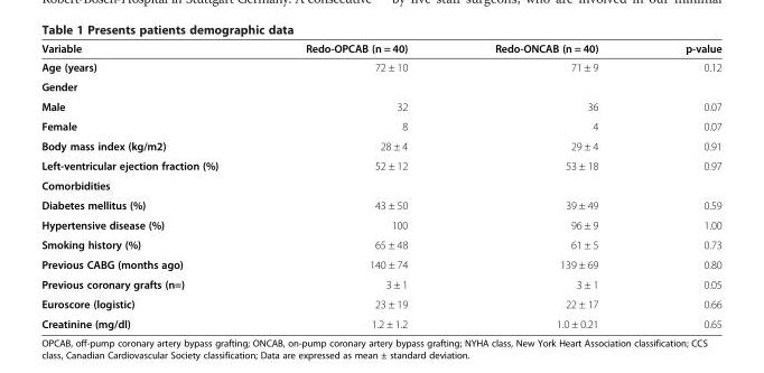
<table><thead><tr><td>Variable</td><td>Redo-OPCAB (n = 40)</td><td>Redo-ONCAB (n = 40)</td><td>p-value</td></tr></thead><tbody><tr><td>Age (years)</td><td>72 ± 10</td><td>71 ± 9</td><td>0.12</td></tr><tr><td colspan="4">Gender</td></tr><tr><td>Male</td><td>32</td><td>36</td><td>0.07</td></tr><tr><td>Female</td><td>8</td><td>4</td><td>0.07</td></tr><tr><td>Body mass index (kg/m2)</td><td>28 ± 4</td><td>29 ± 4</td><td>0.91</td></tr><tr><td>Left-ventricular ejection fraction (%)</td><td>52 ± 12</td><td>53 ± 18</td><td>0.97</td></tr><tr><td colspan="4">Comorbidities</td></tr><tr><td>Diabetes mellitus (%)</td><td>43 ± 50</td><td>39 ± 49</td><td>0.59</td></tr><tr><td>Hypertensive disease (%)</td><td>100</td><td>96 ± 9</td><td>1.00</td></tr><tr><td>Smoking history (%)</td><td>65 ± 48</td><td>61 ± 5</td><td>0.73</td></tr><tr><td>Previous CABG (months ago)</td><td>140 ± 74</td><td>139 ± 69</td><td>0.80</td></tr><tr><td>Previous coronary grafts (n=)</td><td>3 ± 1</td><td>3 ± 1</td><td>0.05</td></tr><tr><td>Euroscore (logistic)</td><td>23 ± 19</td><td>22 ± 17</td><td>0.66</td></tr><tr><td>Creatinine (mg/dl)</td><td>1.2 ± 1.2</td><td>1.0 ± 0.21</td><td>0.65</td></tr></tbody></table>